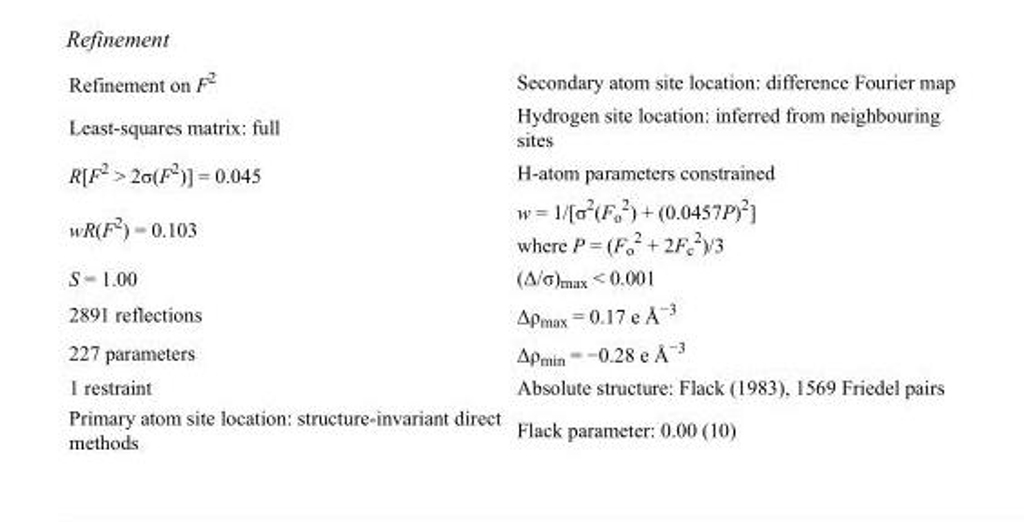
<table><tbody><tr><td>Refinement on F<sup>2</sup></td><td>Secondary atom site location: difference Fourier map</td></tr><tr><td>Least-squares matrix: full</td><td>Hydrogen site location: inferred from neighbouring sites</td></tr><tr><td>R[F<sup>2</sup> &gt; 2σ(F<sup>2</sup>)] = 0.045</td><td>H-atom parameters constrained</td></tr><tr><td>wR(F<sup>2</sup>) = 0.103</td><td>w = 1/[σ<sup>2</sup>(F<sub>o</sub> <sup>2</sup>) + (0.0457P)<sup>2</sup>] where P = (F<sub>o</sub> <sup>2</sup> + 2F<sub>c</sub> <sup>2</sup>)/3</td></tr><tr><td>S = 1.00</td><td>(Δ/σ)<sub>max</sub> &lt; 0.001</td></tr><tr><td>2891 reflections</td><td>Δρ<sub>max</sub> = 0.17 e Å<sup>−3</sup></td></tr><tr><td>227 parameters</td><td>Δρ<sub>min</sub> = −0.28 e Å<sup>−3</sup></td></tr><tr><td>1 restraint</td><td>Absolute structure: Flack (1983), 1569 Friedel pairs</td></tr><tr><td>Primary atom site location: structure-invariant direct methods</td><td>Flack parameter: 0.00 (10)</td></tr></tbody></table>